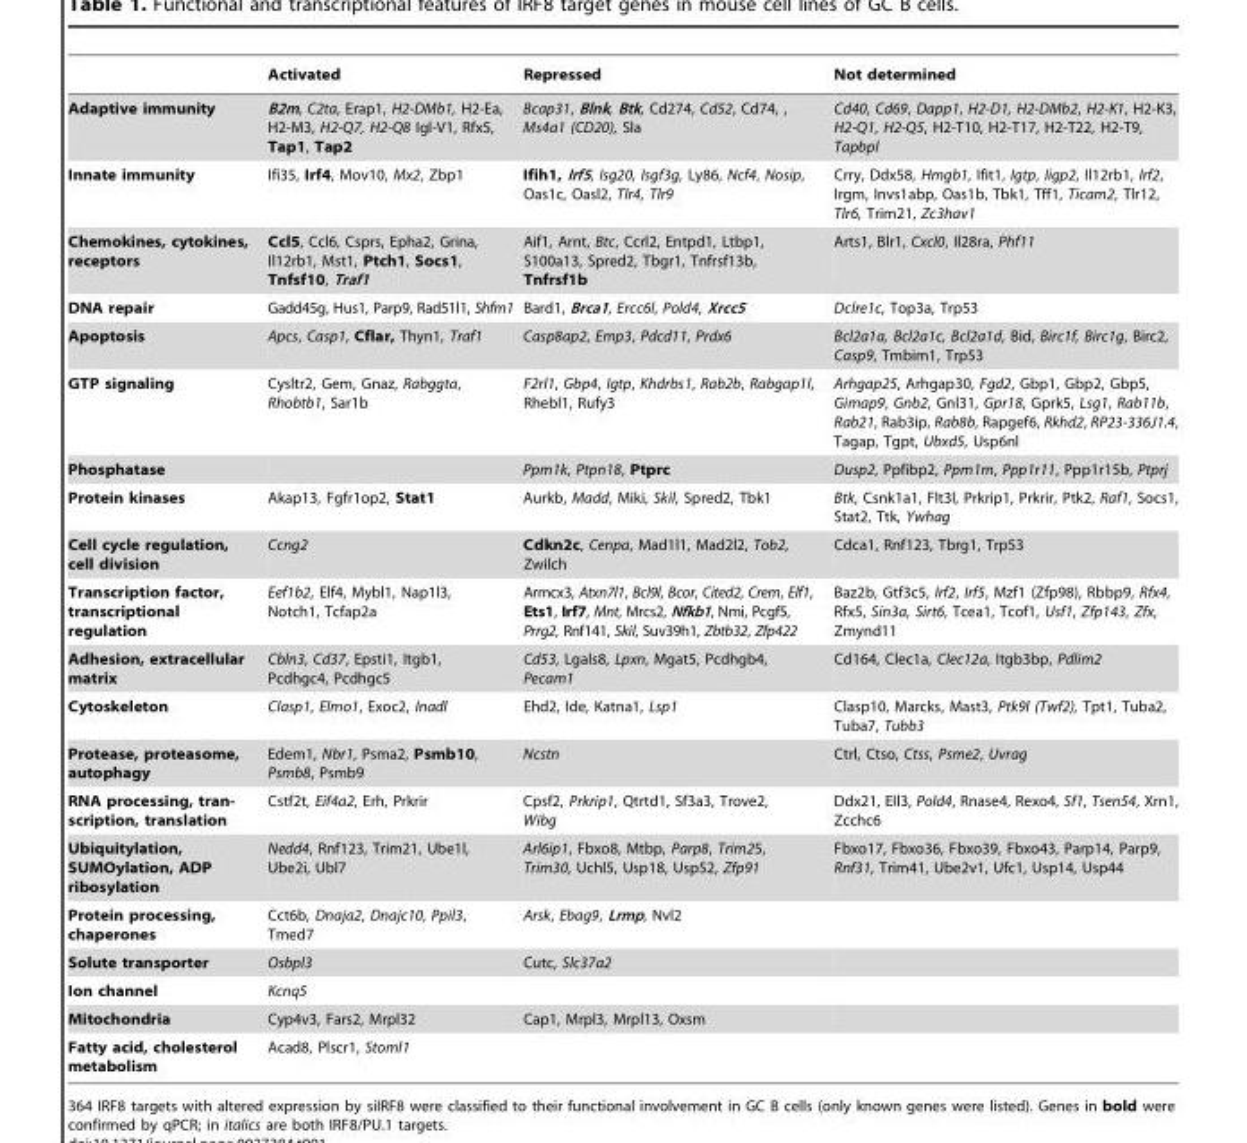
<table><thead><tr><td></td><td>Activated</td><td>Repressed</td><td>Not determined</td></tr></thead><tbody><tr><td>Adaptive immunity</td><td>B2m, C2ta, Erap1, H2-DMb1, H2-Ea, H2-M3, H2-Q7, H2-Q8 Igl-V1, Rfx5, Tap1, Tap2</td><td>Bcap31, Blnk, Btk, Cd274, Cd52, Cd74, , Ms4a1 (CD20), Sla</td><td>Cd40, Cd69, Dapp1, H2-D1, H2-DMb2, H2-K1, H2-K3, H2-Q1, H2-Q5, H2-T10, H2-T17, H2-T22, H2-T9, Tapbpl</td></tr><tr><td>Innate immunity</td><td>Ifi35, Irf4, Mov10, Mx2, Zbp1</td><td>Ifih1, Irf5, Isg20, Isgf3g, Ly86, Ncf4, Nosip, Oas1c, Oasl2, Tlr4, Tlr9</td><td>Crry, Ddx58, Hmgb1, Ifit1, Igtp, Iigp2, Il12rb1, Irf2, Irgm, Invs1abp, Oas1b, Tbk1, Tff1, Ticam2, Tlr12, Tlr6, Trim21, Zc3hav1</td></tr><tr><td>Chemokines, cytokines, receptors</td><td>Ccl5, Ccl6, Csprs, Epha2, Grina, Il12rb1, Mst1, Ptch1, Socs1, Tnfsf10, Traf1</td><td>Aif1, Arnt, Btc, Ccrl2, Entpd1, Ltbp1, S100a13, Spred2, Tbgr1, Tnfrsf13b, Tnfrsf1b</td><td>Arts1, Blr1, Cxcl0, Il28ra, Phf11</td></tr><tr><td>DNA repair</td><td>Gadd45g, Hus1, Parp9, Rad51l1, Shfm1</td><td>Bard1, Brca1, Ercc6l, Pold4, Xrcc5</td><td>Dclre1c, Top3a, Trp53</td></tr><tr><td>Apoptosis</td><td>Apcs, Casp1, Cflar, Thyn1, Traf1</td><td>Casp8ap2, Emp3, Pdcd11, Prdx6</td><td>Bcl2a1a, Bcl2a1c, Bcl2a1d, Bid, Birc1f, Birc1g, Birc2, Casp9, Tmbim1, Trp53</td></tr><tr><td>GTP signaling</td><td>Cysltr2, Gem, Gnaz, Rabggta, Rhobtb1, Sar1b</td><td>F2rl1, Gbp4, Igtp, Khdrbs1, Rab2b, Rabgap1l, Rhebl1, Rufy3</td><td>Arhgap25, Arhgap30, Fgd2, Gbp1, Gbp2, Gbp5, Gimap9, Gnb2, Gnl31, Gpr18, Gprk5, Lsg1, Rab11b, Rab21, Rab3ip, Rab8b, Rapgef6, Rkhd2, RP23-336J1.4, Tagap, Tgpt, Ubxd5, Usp6nl</td></tr><tr><td>Phosphatase</td><td></td><td>Ppm1k, Ptpn18, Ptprc</td><td>Dusp2, Ppfibp2, Ppm1m, Ppp1r11, Ppp1r15b, Ptprj</td></tr><tr><td>Protein kinases</td><td>Akap13, Fgfr1op2, Stat1</td><td>Aurkb, Madd, Miki, Skil, Spred2, Tbk1</td><td>Btk, Csnk1a1, Flt3l, Prkrip1, Prkrir, Ptk2, Raf1, Socs1, Stat2, Ttk, Ywhag</td></tr><tr><td>Cell cycle regulation, cell division</td><td>Ccng2</td><td>Cdkn2c, Cenpa, Mad1l1, Mad2l2, Tob2, Zwilch</td><td>Cdca1, Rnf123, Tbrg1, Trp53</td></tr><tr><td>Transcription factor, transcriptional regulation</td><td>Eef1b2, Elf4, Mybl1, Nap1l3, Notch1, Tcfap2a</td><td>Armcx3, Atxn7l1, Bcl9l, Bcor, Cited2, Crem, Elf1, Ets1, Irf7, Mnt, Mrcs2, Nfkb1, Nmi, Pcgf5, Prrg2, Rnf141, Skil, Suv39h1, Zbtb32, Zfp422</td><td>Baz2b, Gtf3c5, Irf2, Irf5, Mzf1 (Zfp98), Rbbp9, Rfx4, Rfx5, Sin3a, Sirt6, Tcea1, Tcof1, Usf1, Zfp143, Zfx, Zmynd11</td></tr><tr><td>Adhesion, extracellular matrix</td><td>Cbln3, Cd37, Epsti1, Itgb1, Pcdhgc4, Pcdhgc5</td><td>Cd53, Lgals8, Lpxn, Mgat5, Pcdhgb4, Pecam1</td><td>Cd164, Clec1a, Clec12a, Itgb3bp, Pdlim2</td></tr><tr><td>Cytoskeleton</td><td>Clasp1, Elmo1, Exoc2, Inadl</td><td>Ehd2, Ide, Katna1, Lsp1</td><td>Clasp10, Marcks, Mast3, Ptk9l (Twf2), Tpt1, Tuba2, Tuba7, Tubb3</td></tr><tr><td>Protease, proteasome, autophagy</td><td>Edem1, Nbr1, Psma2, Psmb10, Psmb8, Psmb9</td><td>Ncstn</td><td>Ctrl, Ctso, Ctss, Psme2, Uvrag</td></tr><tr><td>RNA processing, tran- scription, translation</td><td>Cstf2t, Eif4a2, Erh, Prkrir</td><td>Cpsf2, Prkrip1, Qtrtd1, Sf3a3, Trove2, Wibg</td><td>Ddx21, Ell3, Pold4, Rnase4, Rexo4, Sf1, Tsen54, Xrn1, Zcchc6</td></tr><tr><td>Ubiquitylation, SUMOylation, ADP ribosylation</td><td>Nedd4, Rnf123, Trim21, Ube1l, Ube2i, Ubl7</td><td>Arl6ip1, Fbxo8, Mtbp, Parp8, Trim25, Trim30, Uchl5, Usp18, Usp52, Zfp91</td><td>Fbxo17, Fbxo36, Fbxo39, Fbxo43, Parp14, Parp9, Rnf31, Trim41, Ube2v1, Ufc1, Usp14, Usp44</td></tr><tr><td>Protein processing, chaperones</td><td>Cct6b, Dnaja2, Dnajc10, Ppil3, Tmed7</td><td>Arsk, Ebag9, Lrmp, Nvl2</td><td></td></tr><tr><td>Solute transporter</td><td>Osbpl3</td><td>Cutc, Slc37a2</td><td></td></tr><tr><td>Ion channel</td><td>Kcnq5</td><td></td><td></td></tr><tr><td>Mitochondria</td><td>Cyp4v3, Fars2, Mrpl32</td><td>Cap1, Mrpl3, Mrpl13, Oxsm</td><td></td></tr><tr><td>Fatty acid, cholesterol metabolism</td><td>Acad8, Plscr1, Stoml1</td><td></td><td></td></tr></tbody></table>